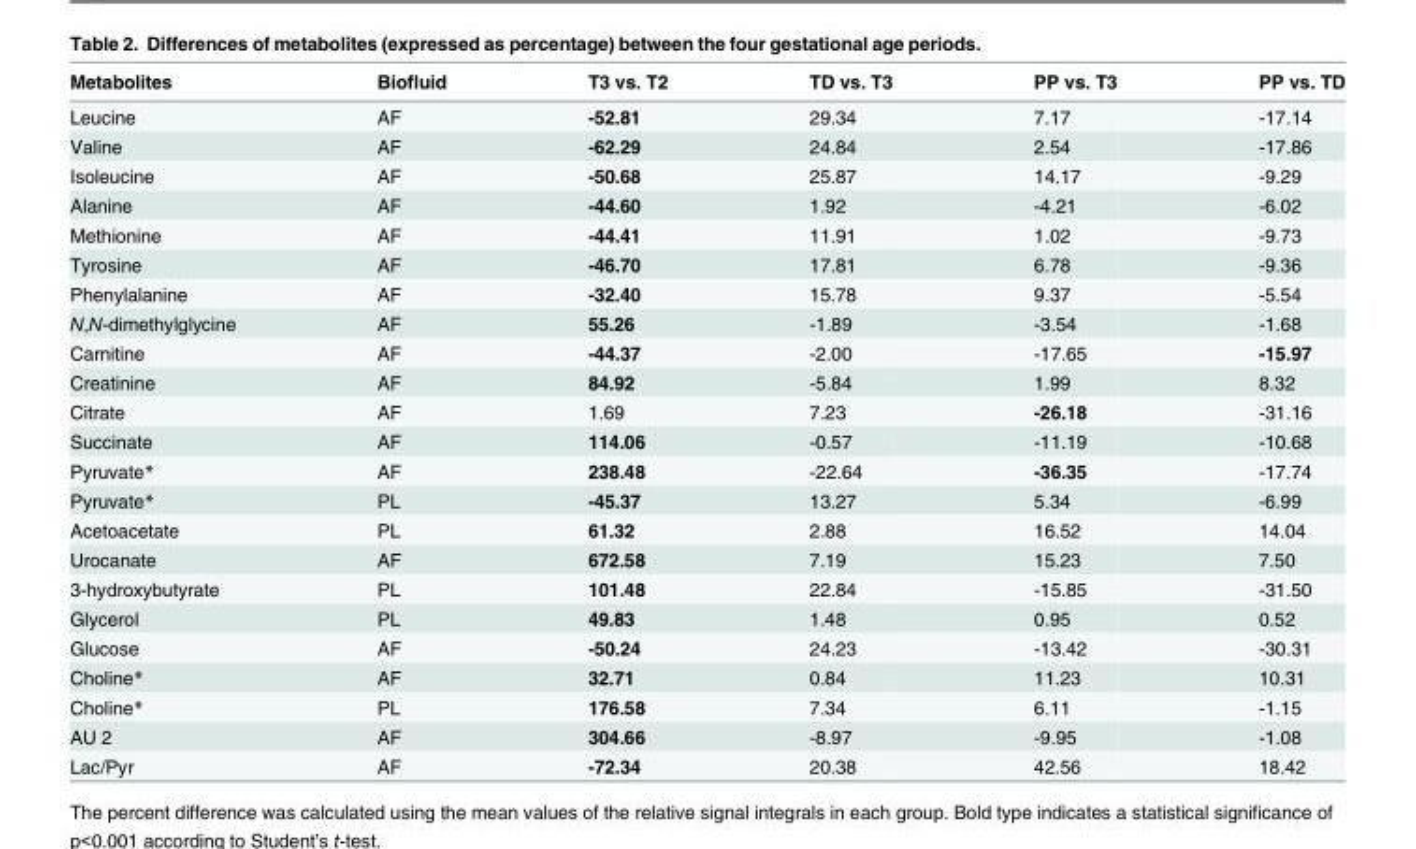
<table><thead><tr><td>Metabolites</td><td>Biofluid</td><td>T3 vs. T2</td><td>TD vs. T3</td><td>PP vs. T3</td><td>PP vs. TD</td></tr></thead><tbody><tr><td>Leucine</td><td>AF</td><td>-52.81</td><td>29.34</td><td>7.17</td><td>-17.14</td></tr><tr><td>Valine</td><td>AF</td><td>-62.29</td><td>24.84</td><td>2.54</td><td>-17.86</td></tr><tr><td>Isoleucine</td><td>AF</td><td>-50.68</td><td>25.87</td><td>14.17</td><td>-9.29</td></tr><tr><td>Alanine</td><td>AF</td><td>-44.60</td><td>1.92</td><td>-4.21</td><td>-6.02</td></tr><tr><td>Methionine</td><td>AF</td><td>-44.41</td><td>11.91</td><td>1.02</td><td>-9.73</td></tr><tr><td>Tyrosine</td><td>AF</td><td>-46.70</td><td>17.81</td><td>6.78</td><td>-9.36</td></tr><tr><td>Phenylalanine</td><td>AF</td><td>-32.40</td><td>15.78</td><td>9.37</td><td>-5.54</td></tr><tr><td>N,N-dimethylglycine</td><td>AF</td><td>55.26</td><td>-1.89</td><td>-3.54</td><td>-1.68</td></tr><tr><td>Carnitine</td><td>AF</td><td>-44.37</td><td>-2.00</td><td>-17.65</td><td>-15.97</td></tr><tr><td>Creatinine</td><td>AF</td><td>84.92</td><td>-5.84</td><td>1.99</td><td>8.32</td></tr><tr><td>Citrate</td><td>AF</td><td>1.69</td><td>7.23</td><td>-26.18</td><td>-31.16</td></tr><tr><td>Succinate</td><td>AF</td><td>114.06</td><td>-0.57</td><td>-11.19</td><td>-10.68</td></tr><tr><td>Pyruvate*</td><td>AF</td><td>238.48</td><td>-22.64</td><td>-36.35</td><td>-17.74</td></tr><tr><td>Pyruvate*</td><td>PL</td><td>-45.37</td><td>13.27</td><td>5.34</td><td>-6.99</td></tr><tr><td>Acetoacetate</td><td>PL</td><td>61.32</td><td>2.88</td><td>16.52</td><td>14.04</td></tr><tr><td>Urocanate</td><td>AF</td><td>672.58</td><td>7.19</td><td>15.23</td><td>7.50</td></tr><tr><td>3-hydroxybutyrate</td><td>PL</td><td>101.48</td><td>22.84</td><td>-15.85</td><td>-31.50</td></tr><tr><td>Glycerol</td><td>PL</td><td>49.83</td><td>1.48</td><td>0.95</td><td>0.52</td></tr><tr><td>Glucose</td><td>AF</td><td>-50.24</td><td>24.23</td><td>-13.42</td><td>-30.31</td></tr><tr><td>Choline*</td><td>AF</td><td>32.71</td><td>0.84</td><td>11.23</td><td>10.31</td></tr><tr><td>Choline*</td><td>PL</td><td>176.58</td><td>7.34</td><td>6.11</td><td>-1.15</td></tr><tr><td>AU 2</td><td>AF</td><td>304.66</td><td>-8.97</td><td>-9.95</td><td>-1.08</td></tr><tr><td>Lac/Pyr</td><td>AF</td><td>-72.34</td><td>20.38</td><td>42.56</td><td>18.42</td></tr></tbody></table>